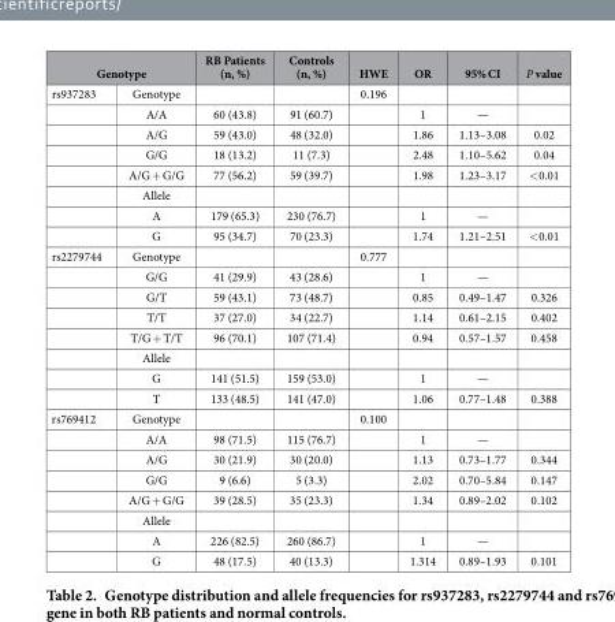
<table><thead><tr><td colspan="2">Genotype</td><td rowspan="2">RB Patients (n, %)</td><td rowspan="2">Controls (n, %)</td><td rowspan="2">HWE 0.196</td><td rowspan="2">OR</td><td rowspan="2">95% CI</td><td rowspan="2">P value</td></tr><tr><td>rs937283</td><td>Genotype</td></tr></thead><tbody><tr><td></td><td>A/A</td><td>60 (43.8)</td><td>91 (60.7)</td><td></td><td>1</td><td>—</td><td></td></tr><tr><td></td><td>A/G</td><td>59 (43.0)</td><td>48 (32.0)</td><td></td><td>1.86</td><td>1.13–3.08</td><td>0.02</td></tr><tr><td></td><td>G/G</td><td>18 (13.2)</td><td>11 (7.3)</td><td></td><td>2.48</td><td>1.10–5.62</td><td>0.04</td></tr><tr><td></td><td>A/G + G/G</td><td>77 (56.2)</td><td>59 (39.7)</td><td></td><td>1.98</td><td>1.23–3.17</td><td>&lt; 0.01</td></tr><tr><td></td><td>Allele</td><td></td><td></td><td></td><td></td><td></td><td></td></tr><tr><td></td><td>A</td><td>179 (65.3)</td><td>230 (76.7)</td><td></td><td>1</td><td>—</td><td></td></tr><tr><td></td><td>G</td><td>95 (34.7)</td><td>70 (23.3)</td><td></td><td>1.74</td><td>1.21–2.51</td><td>&lt; 0.01</td></tr><tr><td rowspan="8">rs2279744</td><td>Genotype</td><td></td><td></td><td>0.777</td><td></td><td></td><td></td></tr><tr><td>G/G</td><td>41 (29.9)</td><td>43 (28.6)</td><td></td><td>1</td><td>—</td><td></td></tr><tr><td>G/T</td><td>59 (43.1)</td><td>73 (48.7)</td><td></td><td>0.85</td><td>0.49–1.47</td><td>0.326</td></tr><tr><td>T/T</td><td>37 (27.0)</td><td>34 (22.7)</td><td></td><td>1.14</td><td>0.61–2.15</td><td>0.402</td></tr><tr><td>T/G + T/T</td><td>96 (70.1)</td><td>107 (71.4)</td><td></td><td>0.94</td><td>0.57–1.57</td><td>0.458</td></tr><tr><td>Allele</td><td></td><td></td><td></td><td></td><td></td><td></td></tr><tr><td>G</td><td>141 (51.5)</td><td>159 (53.0)</td><td></td><td>1</td><td>—</td><td></td></tr><tr><td>T</td><td>133 (48.5)</td><td>141 (47.0)</td><td></td><td>1.06</td><td>0.77–1.48</td><td>0.388</td></tr><tr><td rowspan="8">rs769412</td><td>Genotype</td><td></td><td></td><td>0.100</td><td></td><td></td><td></td></tr><tr><td>A/A</td><td>98 (71.5)</td><td>115 (76.7)</td><td></td><td>1</td><td>—</td><td></td></tr><tr><td>A/G</td><td>30 (21.9)</td><td>30 (20.0)</td><td></td><td>1.13</td><td>0.73–1.77</td><td>0.344</td></tr><tr><td>G/G</td><td>9 (6.6)</td><td>5 (3.3)</td><td></td><td>2.02</td><td>0.70–5.84</td><td>0.147</td></tr><tr><td>A/G + G/G</td><td>39 (28.5)</td><td>35 (23.3)</td><td></td><td>1.34</td><td>0.89–2.02</td><td>0.102</td></tr><tr><td>Allele</td><td></td><td></td><td></td><td></td><td></td><td></td></tr><tr><td>A</td><td>226 (82.5)</td><td>260 (86.7)</td><td></td><td>1</td><td>—</td><td></td></tr><tr><td>G</td><td>48 (17.5)</td><td>40 (13.3)</td><td></td><td>1.314</td><td>0.89–1.93</td><td>0.101</td></tr></tbody></table>